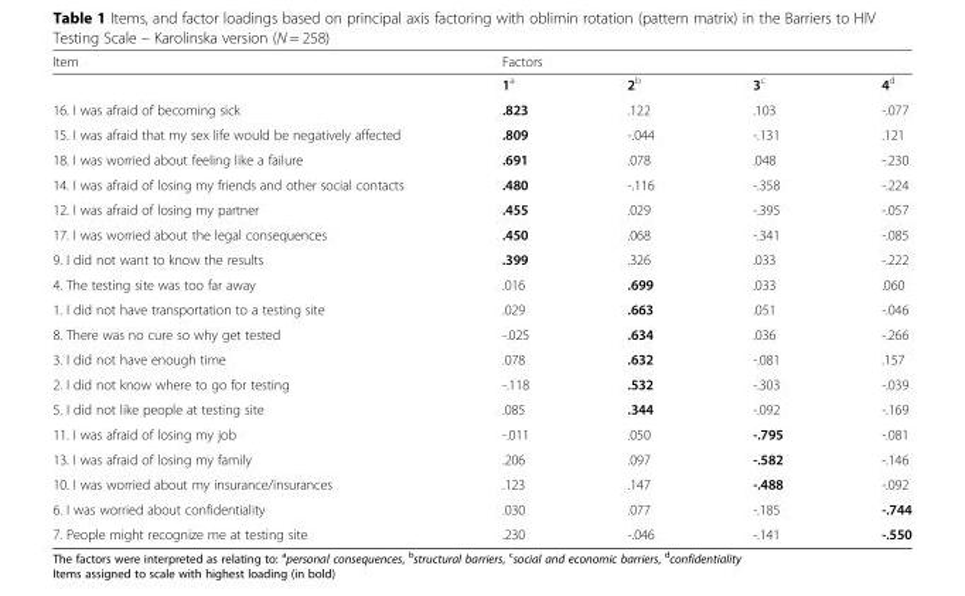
<table><thead><tr><td rowspan="2">Item</td><td colspan="4">Factors</td></tr><tr><td>1<sup>a</sup></td><td>2<sup>b</sup></td><td>3<sup>c</sup></td><td>4<sup>d</sup></td></tr></thead><tbody><tr><td>16. I was afraid of becoming sick</td><td>.823</td><td>.122</td><td>.103</td><td>-.077</td></tr><tr><td>15. I was afraid that my sex life would be negatively affected</td><td>.809</td><td>-.044</td><td>-.131</td><td>.121</td></tr><tr><td>18. I was worried about feeling like a failure</td><td>.691</td><td>.078</td><td>.048</td><td>-.230</td></tr><tr><td>14. I was afraid of losing my friends and other social contacts</td><td>.480</td><td>-.116</td><td>-.358</td><td>-.224</td></tr><tr><td>12. I was afraid of losing my partner</td><td>.455</td><td>.029</td><td>-.395</td><td>-.057</td></tr><tr><td>17. I was worried about the legal consequences</td><td>.450</td><td>.068</td><td>-.341</td><td>-.085</td></tr><tr><td>9. I did not want to know the results</td><td>.399</td><td>.326</td><td>.033</td><td>-.222</td></tr><tr><td>4. The testing site was too far away</td><td>.016</td><td>.699</td><td>.033</td><td>.060</td></tr><tr><td>1. I did not have transportation to a testing site</td><td>.029</td><td>.663</td><td>.051</td><td>-.046</td></tr><tr><td>8. There was no cure so why get tested</td><td>-.025</td><td>.634</td><td>.036</td><td>-.266</td></tr><tr><td>3. I did not have enough time</td><td>.078</td><td>.632</td><td>-.081</td><td>.157</td></tr><tr><td>2. I did not know where to go for testing</td><td>-.118</td><td>.532</td><td>-.303</td><td>-.039</td></tr><tr><td>5. I did not like people at testing site</td><td>.085</td><td>.344</td><td>-.092</td><td>-.169</td></tr><tr><td>11. I was afraid of losing my job</td><td>-.011</td><td>.050</td><td>-.795</td><td>-.081</td></tr><tr><td>13. I was afraid of losing my family</td><td>.206</td><td>.097</td><td>-.582</td><td>-.146</td></tr><tr><td>10. I was worried about my insurance/insurances</td><td>.123</td><td>.147</td><td>-.488</td><td>-.092</td></tr><tr><td>6. I was worried about confidentiality</td><td>.030</td><td>.077</td><td>-.185</td><td>-.744</td></tr><tr><td>7. People might recognize me at testing site</td><td>.230</td><td>-.046</td><td>-.141</td><td>-.550</td></tr></tbody></table>